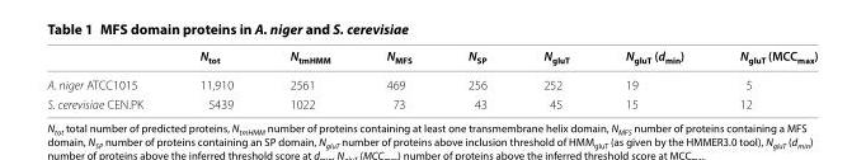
<table><thead><tr><td></td><td>N<sub>tot</sub></td><td>N<sub>tmHMM</sub></td><td>N<sub>MFS</sub></td><td>N<sub>SP</sub></td><td>N<sub>gluT</sub></td><td>N<sub>gluT</sub> (d<sub>min</sub>)</td><td>N<sub>gluT</sub> (MCC<sub>max</sub>)</td></tr></thead><tbody><tr><td>A. niger ATCC1015</td><td>11,910</td><td>2561</td><td>469</td><td>256</td><td>252</td><td>19</td><td>5</td></tr><tr><td>S. cerevisiae CEN.PK</td><td>5439</td><td>1022</td><td>73</td><td>43</td><td>45</td><td>15</td><td>12</td></tr></tbody></table>